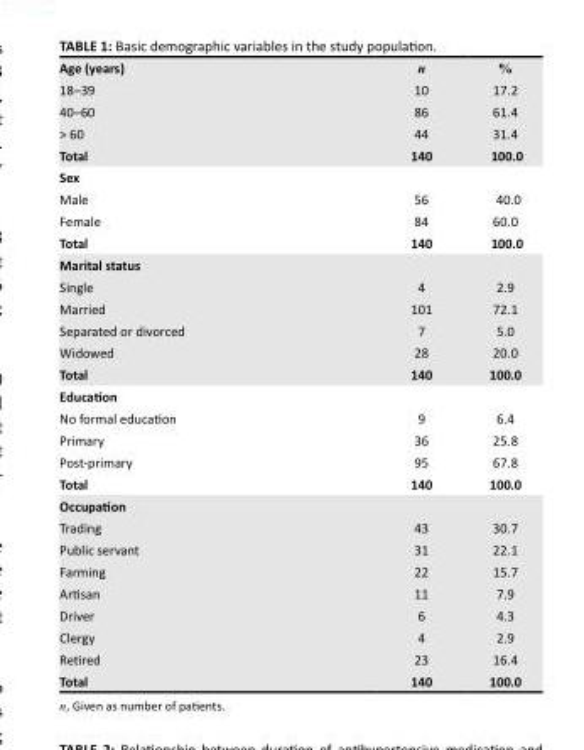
<table><tbody><tr><td>Age (years)</td><td>n</td><td>%</td></tr><tr><td>18–39</td><td>10</td><td>17.2</td></tr><tr><td>40–60</td><td>86</td><td>61.4</td></tr><tr><td>&gt; 60</td><td>44</td><td>31.4</td></tr><tr><td>Total</td><td>140</td><td>100.0</td></tr><tr><td colspan="3">Sex</td></tr><tr><td>Male</td><td>56</td><td>40.0</td></tr><tr><td>Female</td><td>84</td><td>60.0</td></tr><tr><td>Total</td><td>140</td><td>100.0</td></tr><tr><td colspan="3">Marital status</td></tr><tr><td>Single</td><td>4</td><td>2.9</td></tr><tr><td>Married</td><td>101</td><td>72.1</td></tr><tr><td>Separated or divorced</td><td>7</td><td>5.0</td></tr><tr><td>Widowed</td><td>28</td><td>20.0</td></tr><tr><td>Total</td><td>140</td><td>100.0</td></tr><tr><td colspan="3">Education</td></tr><tr><td>No formal education</td><td>9</td><td>6.4</td></tr><tr><td>Primary</td><td>36</td><td>25.8</td></tr><tr><td>Post-primary</td><td>95</td><td>67.8</td></tr><tr><td>Total</td><td>140</td><td>100.0</td></tr><tr><td colspan="3">Occupation</td></tr><tr><td>Trading</td><td>43</td><td>30.7</td></tr><tr><td>Public servant</td><td>31</td><td>22.1</td></tr><tr><td>Farming</td><td>22</td><td>15.7</td></tr><tr><td>Artisan</td><td>11</td><td>7.9</td></tr><tr><td>Driver</td><td>6</td><td>4.3</td></tr><tr><td>Clergy</td><td>4</td><td>2.9</td></tr><tr><td>Retired</td><td>23</td><td>16.4</td></tr><tr><td>Total</td><td>140</td><td>100.0</td></tr></tbody></table>